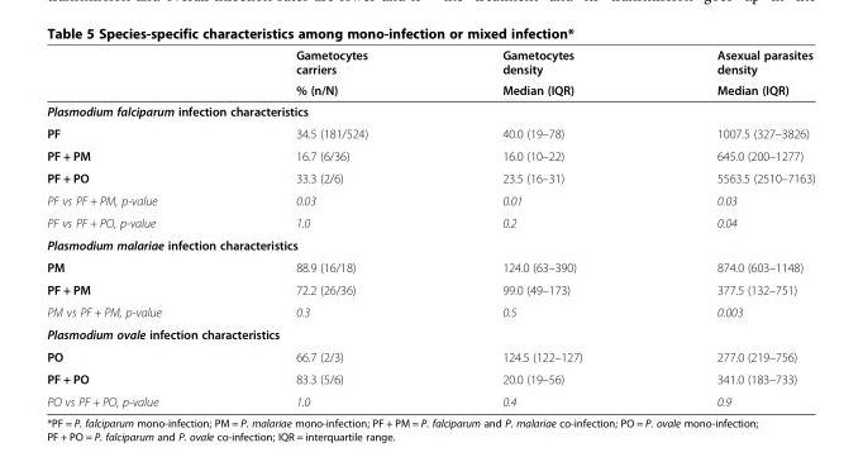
<table><thead><tr><td rowspan="2"></td><td rowspan="2">Gametocytes carriers % (n/N)</td><td rowspan="2">Gametocytes density Median (IQR)</td><td rowspan="2">Asexual parasites density Median (IQR)</td></tr><tr></tr></thead><tbody><tr><td colspan="4">Plasmodium falciparum infection characteristics</td></tr><tr><td>PF</td><td>34.5 (181/524)</td><td>40.0 (19–78)</td><td>1007.5 (327–3826)</td></tr><tr><td>PF + PM</td><td>16.7 (6/36)</td><td>16.0 (10–22)</td><td>645.0 (200–1277)</td></tr><tr><td>PF + PO</td><td>33.3 (2/6)</td><td>23.5 (16–31)</td><td>5563.5 (2510–7163)</td></tr><tr><td>PF vs PF + PM, p-value</td><td>0.03</td><td>0.01</td><td>0.03</td></tr><tr><td>PF vs PF + PO, p-value</td><td>1.0</td><td>0.2</td><td>0.04</td></tr><tr><td colspan="4">Plasmodium malariae infection characteristics</td></tr><tr><td>PM</td><td>88.9 (16/18)</td><td>124.0 (63–390)</td><td>874.0 (603–1148)</td></tr><tr><td>PF + PM</td><td>72.2 (26/36)</td><td>99.0 (49–173)</td><td>377.5 (132–751)</td></tr><tr><td>PM vs PF + PM, p-value</td><td>0.3</td><td>0.5</td><td>0.003</td></tr><tr><td colspan="4">Plasmodium ovale infection characteristics</td></tr><tr><td>PO</td><td>66.7 (2/3)</td><td>124.5 (122–127)</td><td>277.0 (219–756)</td></tr><tr><td>PF + PO</td><td>83.3 (5/6)</td><td>20.0 (19–56)</td><td>341.0 (183–733)</td></tr><tr><td>PO vs PF + PO, p-value</td><td>1.0</td><td>0.4</td><td>0.9</td></tr></tbody></table>